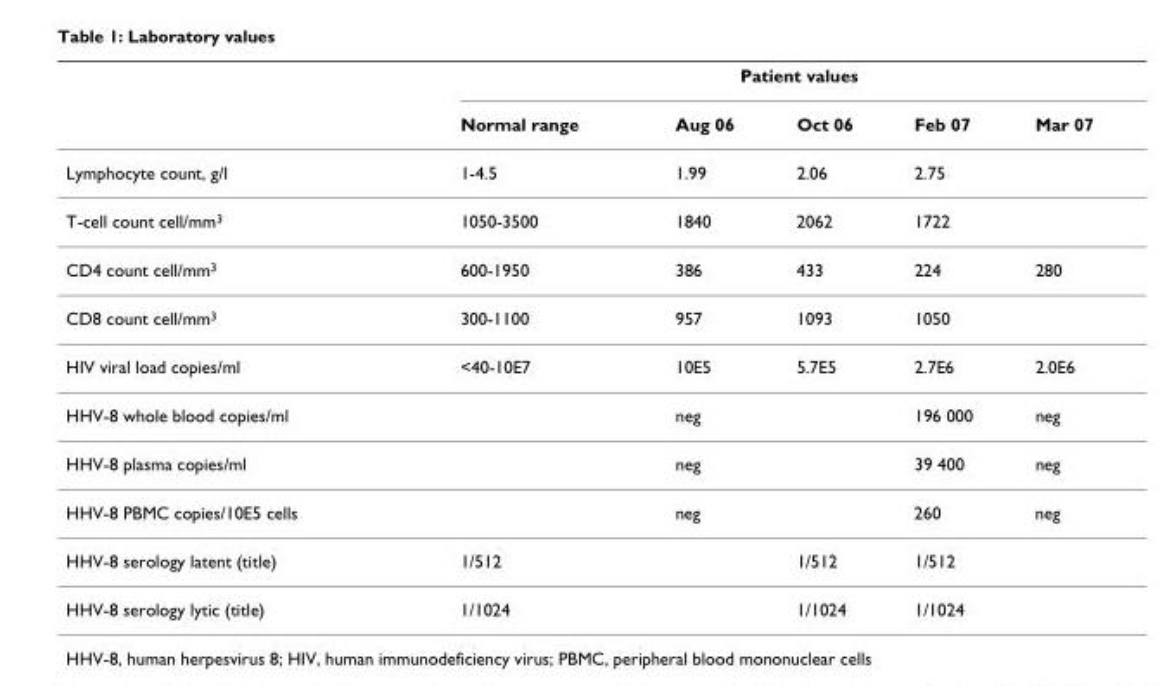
<table><thead><tr><td rowspan="2"></td><td colspan="5">Patient values</td></tr><tr><td>Normal range</td><td>Aug 06</td><td>Oct 06</td><td>Feb 07</td><td>Mar 07</td></tr></thead><tbody><tr><td>Lymphocyte count, g/l</td><td>1-4.5</td><td>1.99</td><td>2.06</td><td>2.75</td><td></td></tr><tr><td>T-cell count cell/mm<sup>3</sup></td><td>1050-3500</td><td>1840</td><td>2062</td><td>1722</td><td></td></tr><tr><td>CD4 count cell/mm<sup>3</sup></td><td>600-1950</td><td>386</td><td>433</td><td>224</td><td>280</td></tr><tr><td>CD8 count cell/mm<sup>3</sup></td><td>300-1100</td><td>957</td><td>1093</td><td>1050</td><td></td></tr><tr><td>HIV viral load copies/ml</td><td>&lt;40-10E7</td><td>10E5</td><td>5.7E5</td><td>2.7E6</td><td>2.0E6</td></tr><tr><td>HHV-8 whole blood copies/ml</td><td></td><td>neg</td><td></td><td>196 000</td><td>neg</td></tr><tr><td>HHV-8 plasma copies/ml</td><td></td><td>neg</td><td></td><td>39 400</td><td>neg</td></tr><tr><td>HHV-8 PBMC copies/10E5 cells</td><td></td><td>neg</td><td></td><td>260</td><td>neg</td></tr><tr><td>HHV-8 serology latent (title)</td><td>1/512</td><td></td><td>1/512</td><td>1/512</td><td></td></tr><tr><td>HHV-8 serology lytic (title)</td><td>1/1024</td><td></td><td>1/1024</td><td>1/1024</td><td></td></tr></tbody></table>